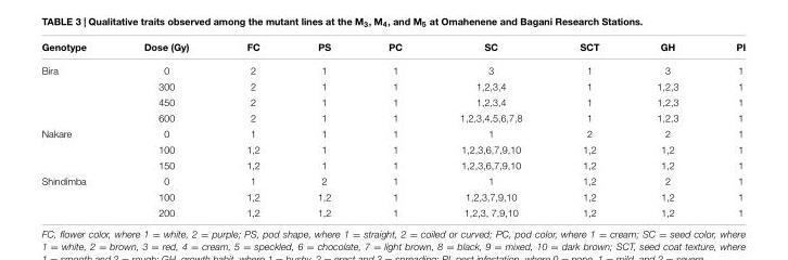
<table><thead><tr><td>Genotype</td><td>Dose (Gy)</td><td>FC</td><td>PS</td><td>PC</td><td>SC</td><td>SCT</td><td>GH</td><td>PI</td></tr></thead><tbody><tr><td rowspan="4">Bira</td><td>0</td><td>2</td><td>1</td><td>1</td><td>3</td><td>1</td><td>3</td><td>1</td></tr><tr><td>300</td><td>2</td><td>1</td><td>1</td><td>1,2,3,4</td><td>1</td><td>1,2,3</td><td>1</td></tr><tr><td>450</td><td>2</td><td>1</td><td>1</td><td>1,2,3,4</td><td>1</td><td>1,2,3</td><td>1</td></tr><tr><td>600</td><td>2</td><td>1</td><td>1</td><td>1,2,3,4,5,6,7,8</td><td>1</td><td>1,2,3</td><td>1</td></tr><tr><td rowspan="3">Nakare</td><td>0</td><td>1</td><td>1</td><td>1</td><td>1</td><td>2</td><td>2</td><td>1</td></tr><tr><td>100</td><td>1,2</td><td>1</td><td>1</td><td>1,2,3,6,7,9,10</td><td>1,2</td><td>1,2</td><td>1</td></tr><tr><td>150</td><td>1,2</td><td>1</td><td>1</td><td>1,2,3,6,7,9,10</td><td>1,2</td><td>1,2</td><td>1</td></tr><tr><td rowspan="3">Shindimba</td><td>0</td><td>1</td><td>2</td><td>1</td><td>1</td><td>1,2</td><td>2</td><td>1</td></tr><tr><td>100</td><td>1,2</td><td>1,2</td><td>1</td><td>1,2,3,7,9,10</td><td>1,2</td><td>1,2</td><td>1</td></tr><tr><td>200</td><td>1,2</td><td>1,2</td><td>1</td><td>1,2,3, 7,9,10</td><td>1,2</td><td>1,2</td><td>1</td></tr></tbody></table>